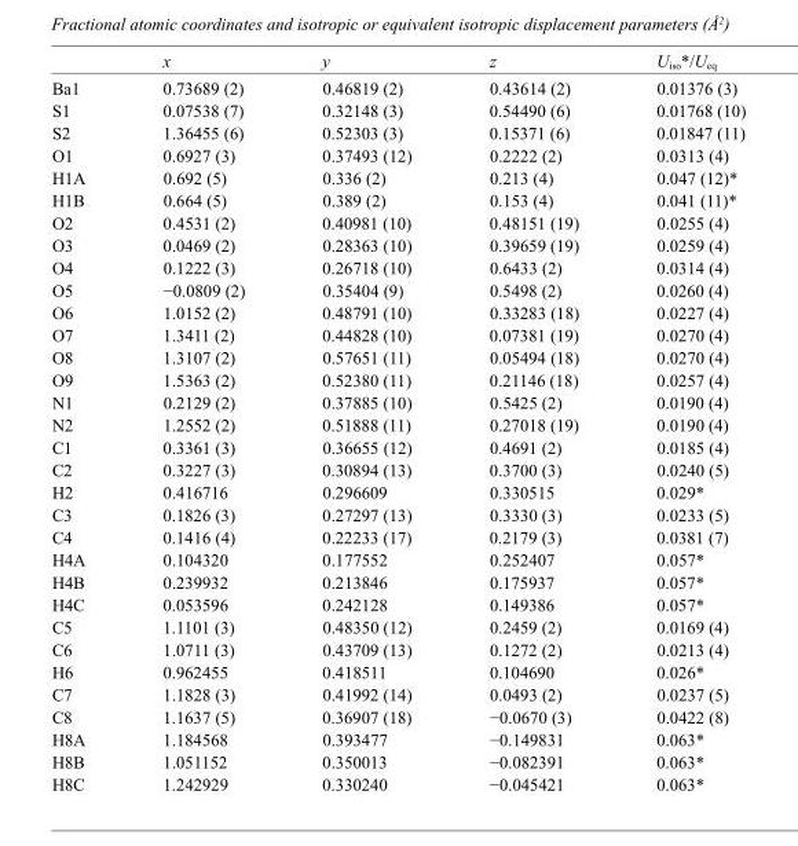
<table><thead><tr><td></td><td>x</td><td>y</td><td>z</td><td>U<sub>iso</sub>*/U<sub>eq</sub></td></tr></thead><tbody><tr><td>Ba1</td><td>0.73689 (2)</td><td>0.46819 (2)</td><td>0.43614 (2)</td><td>0.01376 (3)</td></tr><tr><td>S1</td><td>0.07538 (7)</td><td>0.32148 (3)</td><td>0.54490 (6)</td><td>0.01768 (10)</td></tr><tr><td>S2</td><td>1.36455 (6)</td><td>0.52303 (3)</td><td>0.15371 (6)</td><td>0.01847 (11)</td></tr><tr><td>O1</td><td>0.6927 (3)</td><td>0.37493 (12)</td><td>0.2222 (2)</td><td>0.0313 (4)</td></tr><tr><td>H1A</td><td>0.692 (5)</td><td>0.336 (2)</td><td>0.213 (4)</td><td>0.047 (12)*</td></tr><tr><td>H1B</td><td>0.664 (5)</td><td>0.389 (2)</td><td>0.153 (4)</td><td>0.041 (11)*</td></tr><tr><td>O2</td><td>0.4531 (2)</td><td>0.40981 (10)</td><td>0.48151 (19)</td><td>0.0255 (4)</td></tr><tr><td>O3</td><td>0.0469 (2)</td><td>0.28363 (10)</td><td>0.39659 (19)</td><td>0.0259 (4)</td></tr><tr><td>O4</td><td>0.1222 (3)</td><td>0.26718 (10)</td><td>0.6433 (2)</td><td>0.0314 (4)</td></tr><tr><td>O5</td><td>−0.0809 (2)</td><td>0.35404 (9)</td><td>0.5498 (2)</td><td>0.0260 (4)</td></tr><tr><td>O6</td><td>1.0152 (2)</td><td>0.48791 (10)</td><td>0.33283 (18)</td><td>0.0227 (4)</td></tr><tr><td>O7</td><td>1.3411 (2)</td><td>0.44828 (10)</td><td>0.07381 (19)</td><td>0.0270 (4)</td></tr><tr><td>O8</td><td>1.3107 (2)</td><td>0.57651 (11)</td><td>0.05494 (18)</td><td>0.0270 (4)</td></tr><tr><td>O9</td><td>1.5363 (2)</td><td>0.52380 (11)</td><td>0.21146 (18)</td><td>0.0257 (4)</td></tr><tr><td>N1</td><td>0.2129 (2)</td><td>0.37885 (10)</td><td>0.5425 (2)</td><td>0.0190 (4)</td></tr><tr><td>N2</td><td>1.2552 (2)</td><td>0.51888 (11)</td><td>0.27018 (19)</td><td>0.0190 (4)</td></tr><tr><td>C1</td><td>0.3361 (3)</td><td>0.36655 (12)</td><td>0.4691 (2)</td><td>0.0185 (4)</td></tr><tr><td>C2</td><td>0.3227 (3)</td><td>0.30894 (13)</td><td>0.3700 (3)</td><td>0.0240 (5)</td></tr><tr><td>H2</td><td>0.416716</td><td>0.296609</td><td>0.330515</td><td>0.029*</td></tr><tr><td>C3</td><td>0.1826 (3)</td><td>0.27297 (13)</td><td>0.3330 (3)</td><td>0.0233 (5)</td></tr><tr><td>C4</td><td>0.1416 (4)</td><td>0.22233 (17)</td><td>0.2179 (3)</td><td>0.0381 (7)</td></tr><tr><td>H4A</td><td>0.104320</td><td>0.177552</td><td>0.252407</td><td>0.057*</td></tr><tr><td>H4B</td><td>0.239932</td><td>0.213846</td><td>0.175937</td><td>0.057*</td></tr><tr><td>H4C</td><td>0.053596</td><td>0.242128</td><td>0.149386</td><td>0.057*</td></tr><tr><td>C5</td><td>1.1101 (3)</td><td>0.48350 (12)</td><td>0.2459 (2)</td><td>0.0169 (4)</td></tr><tr><td>C6</td><td>1.0711 (3)</td><td>0.43709 (13)</td><td>0.1272 (2)</td><td>0.0213 (4)</td></tr><tr><td>H6</td><td>0.962455</td><td>0.418511</td><td>0.104690</td><td>0.026*</td></tr><tr><td>C7</td><td>1.1828 (3)</td><td>0.41992 (14)</td><td>0.0493 (2)</td><td>0.0237 (5)</td></tr><tr><td>C8</td><td>1.1637 (5)</td><td>0.36907 (18)</td><td>−0.0670 (3)</td><td>0.0422 (8)</td></tr><tr><td>H8A</td><td>1.184568</td><td>0.393477</td><td>−0.149831</td><td>0.063*</td></tr><tr><td>H8B</td><td>1.051152</td><td>0.350013</td><td>−0.082391</td><td>0.063*</td></tr><tr><td>H8C</td><td>1.242929</td><td>0.330240</td><td>−0.045421</td><td>0.063*</td></tr></tbody></table>